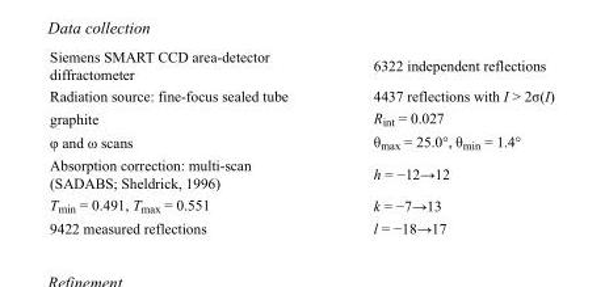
<table><tbody><tr><td>Siemens SMART CCD area-detector diffractometer</td><td>6322 independent reflections</td></tr><tr><td>Radiation source: fine-focus sealed tube</td><td>4437 reflections with I &gt; 2σ(I)</td></tr><tr><td>graphite</td><td>R<sub>int</sub> = 0.027</td></tr><tr><td>φ and ω scans</td><td>θ<sub>max</sub> = 25.0°, θ<sub>min</sub> = 1.4°</td></tr><tr><td>Absorption correction: multi-scan (SADABS; Sheldrick, 1996)</td><td>h = −12→12</td></tr><tr><td>T<sub>min</sub> = 0.491, T<sub>max</sub> = 0.551</td><td>k = −7→13</td></tr><tr><td>9422 measured reflections</td><td>l = −18→17</td></tr></tbody></table>